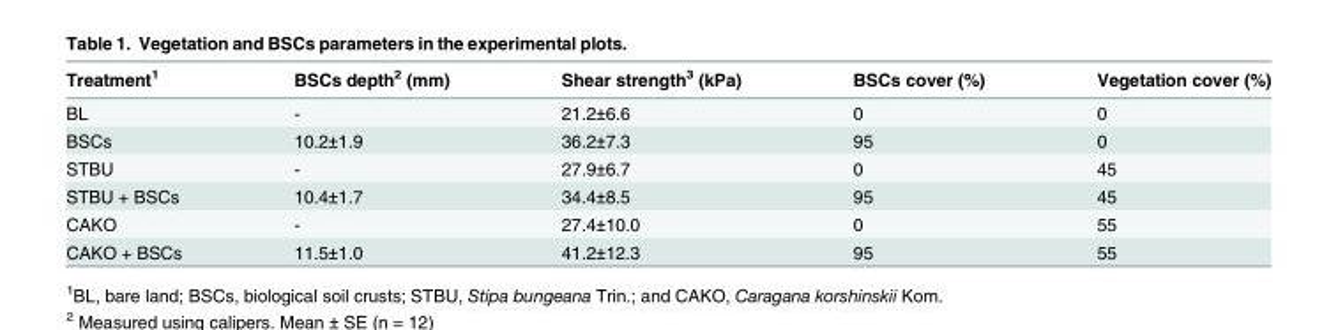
<table><thead><tr><td>Treatment<sup>1</sup></td><td>BSCs depth<sup>2</sup> (mm)</td><td>Shear strength<sup>3</sup> (kPa)</td><td>BSCs cover (%)</td><td>Vegetation cover (%)</td></tr></thead><tbody><tr><td>BL</td><td>-</td><td>21.2±6.6</td><td>0</td><td>0</td></tr><tr><td>BSCs</td><td>10.2±1.9</td><td>36.2±7.3</td><td>95</td><td>0</td></tr><tr><td>STBU</td><td>-</td><td>27.9±6.7</td><td>0</td><td>45</td></tr><tr><td>STBU + BSCs</td><td>10.4±1.7</td><td>34.4±8.5</td><td>95</td><td>45</td></tr><tr><td>CAKO</td><td>-</td><td>27.4±10.0</td><td>0</td><td>55</td></tr><tr><td>CAKO + BSCs</td><td>11.5±1.0</td><td>41.2±12.3</td><td>95</td><td>55</td></tr></tbody></table>